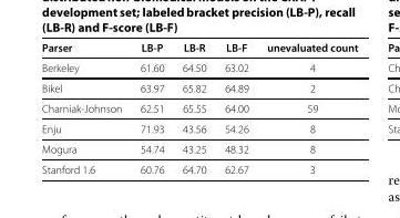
<table><thead><tr><td>Parser</td><td>LB-P</td><td>LB-R</td><td>LB-F</td><td>unevaluated count</td></tr></thead><tbody><tr><td>Berkeley</td><td>61.60</td><td>64.50</td><td>63.02</td><td>4</td></tr><tr><td>Bikel</td><td>63.97</td><td>65.82</td><td>64.89</td><td>2</td></tr><tr><td>Charniak-Johnson</td><td>62.51</td><td>65.55</td><td>64.00</td><td>59</td></tr><tr><td>Enju</td><td>71.93</td><td>43.56</td><td>54.26</td><td>8</td></tr><tr><td>Mogura</td><td>54.74</td><td>43.25</td><td>48.32</td><td>8</td></tr><tr><td>Stanford 1.6</td><td>60.76</td><td>64.70</td><td>62.67</td><td>3</td></tr></tbody></table>